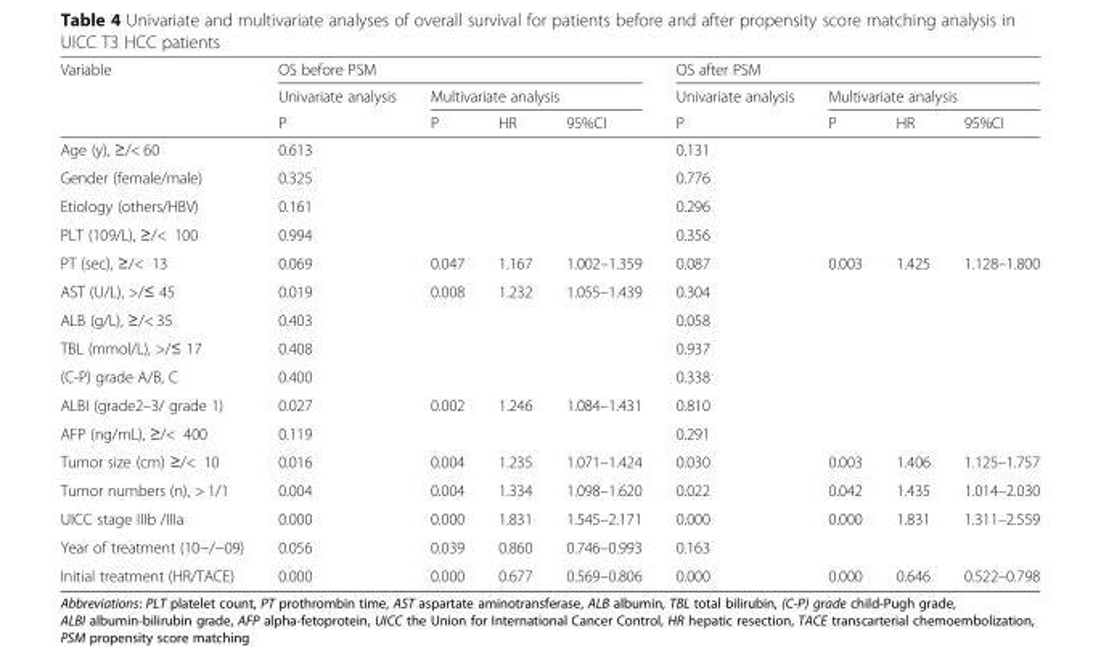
<table><thead><tr><td rowspan="3">Variable</td><td colspan="4">OS before PSM</td><td colspan="4">OS after PSM</td></tr><tr><td rowspan="2">Univariate analysis P</td><td colspan="3">Multivariate analysis</td><td rowspan="2">Univariate analysis P</td><td colspan="3">Multivariate analysis</td></tr><tr><td>P</td><td>HR</td><td>95%CI</td><td>P</td><td>HR</td><td>95%CI</td></tr></thead><tbody><tr><td>Age (y), ≥/&lt; 60</td><td>0.613</td><td></td><td></td><td></td><td>0.131</td><td></td><td></td><td></td></tr><tr><td>Gender (female/male)</td><td>0.325</td><td></td><td></td><td></td><td>0.776</td><td></td><td></td><td></td></tr><tr><td>Etiology (others/HBV)</td><td>0.161</td><td></td><td></td><td></td><td>0.296</td><td></td><td></td><td></td></tr><tr><td>PLT (109/L), ≥/&lt; 100</td><td>0.994</td><td></td><td></td><td></td><td>0.356</td><td></td><td></td><td></td></tr><tr><td>PT (sec), ≥/&lt; 13</td><td>0.069</td><td>0.047</td><td>1.167</td><td>1.002–1.359</td><td>0.087</td><td>0.003</td><td>1.425</td><td>1.128–1.800</td></tr><tr><td>AST (U/L), &gt;/≤ 45</td><td>0.019</td><td>0.008</td><td>1.232</td><td>1.055–1.439</td><td>0.304</td><td></td><td></td><td></td></tr><tr><td>ALB (g/L), ≥/&lt; 35</td><td>0.403</td><td></td><td></td><td></td><td>0.058</td><td></td><td></td><td></td></tr><tr><td>TBL (mmol/L), &gt;/≤ 17</td><td>0.408</td><td></td><td></td><td></td><td>0.937</td><td></td><td></td><td></td></tr><tr><td>(C-P) grade A/B, C</td><td>0.400</td><td></td><td></td><td></td><td>0.338</td><td></td><td></td><td></td></tr><tr><td>ALBI (grade2–3/ grade 1)</td><td>0.027</td><td>0.002</td><td>1.246</td><td>1.084–1.431</td><td>0.810</td><td></td><td></td><td></td></tr><tr><td>AFP (ng/mL), ≥/&lt; 400</td><td>0.119</td><td></td><td></td><td></td><td>0.291</td><td></td><td></td><td></td></tr><tr><td>Tumor size (cm) ≥/&lt; 10</td><td>0.016</td><td>0.004</td><td>1.235</td><td>1.071–1.424</td><td>0.030</td><td>0.003</td><td>1.406</td><td>1.125–1.757</td></tr><tr><td>Tumor numbers (n), &gt; 1/1</td><td>0.004</td><td>0.004</td><td>1.334</td><td>1.098–1.620</td><td>0.022</td><td>0.042</td><td>1.435</td><td>1.014–2.030</td></tr><tr><td>UICC stage IIIb /IIIa</td><td>0.000</td><td>0.000</td><td>1.831</td><td>1.545–2.171</td><td>0.000</td><td>0.000</td><td>1.831</td><td>1.311–2.559</td></tr><tr><td>Year of treatment (10−/−09)</td><td>0.056</td><td>0.039</td><td>0.860</td><td>0.746–0.993</td><td>0.163</td><td></td><td></td><td></td></tr><tr><td>Initial treatment (HR/TACE)</td><td>0.000</td><td>0.000</td><td>0.677</td><td>0.569–0.806</td><td>0.000</td><td>0.000</td><td>0.646</td><td>0.522–0.798</td></tr></tbody></table>